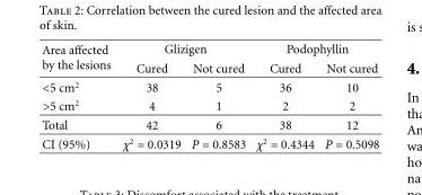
<table><thead><tr><td rowspan="2">Area affected by the lesions</td><td colspan="2">Glizigen</td><td colspan="2">Podophyllin</td></tr><tr><td>Cured</td><td>Not cured</td><td>Cured</td><td>Not cured</td></tr></thead><tbody><tr><td>&lt;5 cm<sup>2</sup></td><td>38</td><td>5</td><td>36</td><td>10</td></tr><tr><td>&gt;5 cm<sup>2</sup></td><td>4</td><td>1</td><td>2</td><td>2</td></tr><tr><td>Total</td><td>42</td><td>6</td><td>38</td><td>12</td></tr><tr><td>CI (95%)</td><td>χ<sup>2</sup> = 0.0319</td><td>P = 0.8583</td><td>χ<sup>2</sup> = 0.4344</td><td>P = 0.5098</td></tr></tbody></table>